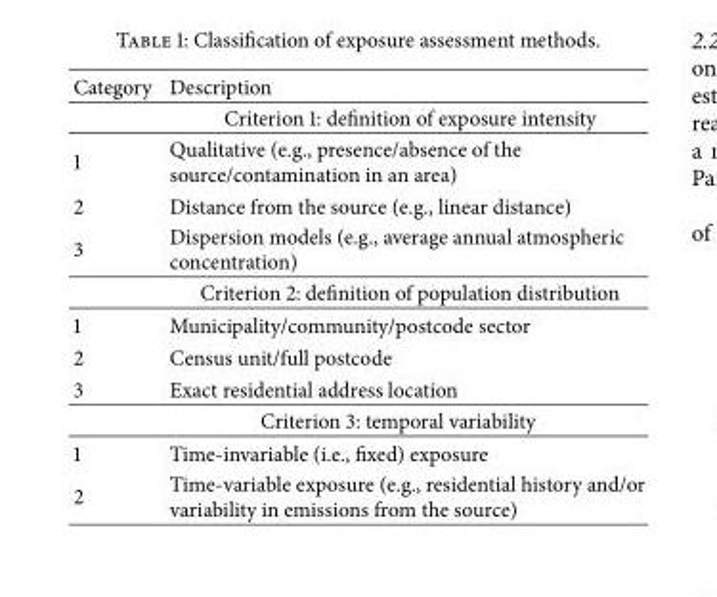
<table><thead><tr><td>Category</td><td>Description</td></tr></thead><tbody><tr><td colspan="2">Criterion 1: definition of exposure intensity</td></tr><tr><td>1</td><td>Qualitative (e.g., presence/absence of the source/contamination in an area)</td></tr><tr><td>2</td><td>Distance from the source (e.g., linear distance)</td></tr><tr><td>3</td><td>Dispersion models (e.g., average annual atmospheric concentration)</td></tr><tr><td colspan="2">Criterion 2: definition of population distribution</td></tr><tr><td>1</td><td>Municipality/community/postcode sector</td></tr><tr><td>2</td><td>Census unit/full postcode</td></tr><tr><td>3</td><td>Exact residential address location</td></tr><tr><td colspan="2">Criterion 3: temporal variability</td></tr><tr><td>1</td><td>Time-invariable (i.e., fixed) exposure</td></tr><tr><td>2</td><td>Time-variable exposure (e.g., residential history and/or variability in emissions from the source)</td></tr></tbody></table>